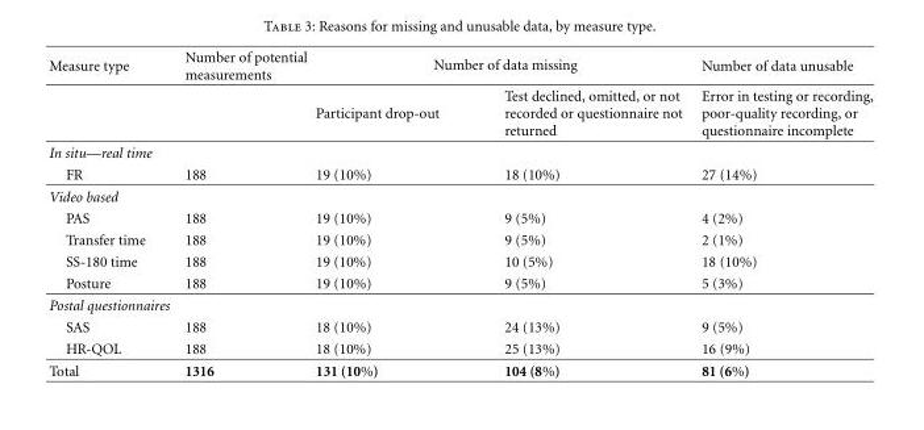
<table><thead><tr><td rowspan="2">Measure type</td><td rowspan="2">Number of potential measurements</td><td colspan="2">Number of data missing</td><td rowspan="2">Number of data unusable Error in testing or recording, poor-quality recording, or questionnaire incomplete</td></tr><tr><td>Participant drop-out</td><td>Test declined, omitted, or not recorded or questionnaire not returned</td></tr></thead><tbody><tr><td colspan="5">In situ—real time</td></tr><tr><td>FR</td><td>188</td><td>19 (10%)</td><td>18 (10%)</td><td>27 (14%)</td></tr><tr><td colspan="5">Video based</td></tr><tr><td>PAS</td><td>188</td><td>19 (10%)</td><td>9 (5%)</td><td>4 (2%)</td></tr><tr><td>Transfer time</td><td>188</td><td>19 (10%)</td><td>9 (5%)</td><td>2 (1%)</td></tr><tr><td>SS-180 time</td><td>188</td><td>19 (10%)</td><td>10 (5%)</td><td>18 (10%)</td></tr><tr><td>Posture</td><td>188</td><td>19 (10%)</td><td>9 (5%)</td><td>5 (3%)</td></tr><tr><td colspan="5">Postal questionnaires</td></tr><tr><td>SAS</td><td>188</td><td>18 (10%)</td><td>24 (13%)</td><td>9 (5%)</td></tr><tr><td>HR-QOL</td><td>188</td><td>18 (10%)</td><td>25 (13%)</td><td>16 (9%)</td></tr><tr><td>Total</td><td>1316</td><td>131 (10%)</td><td>104 (8%)</td><td>81 (6%)</td></tr></tbody></table>